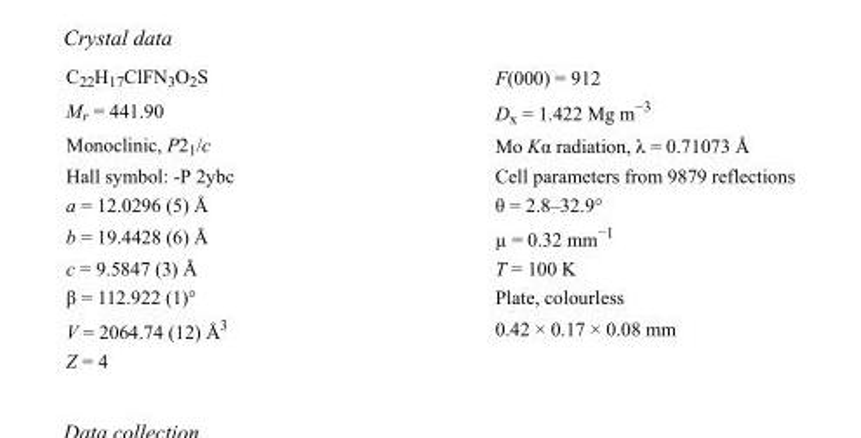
<table><tbody><tr><td>C<sub>22</sub>H<sub>17</sub>ClFN<sub>3</sub>O<sub>2</sub>S</td><td>F(000) = 912</td></tr><tr><td>M<sub>r</sub> = 441.90</td><td>D<sub>x</sub> = 1.422 Mg m<sup>−3</sup></td></tr><tr><td>Monoclinic, P2<sub>1</sub>/c</td><td>Mo Kα radiation, λ = 0.71073 Å</td></tr><tr><td>Hall symbol: -P 2ybc</td><td>Cell parameters from 9879 reflections</td></tr><tr><td>a = 12.0296 (5) Å</td><td>θ = 2.8–32.9°</td></tr><tr><td>b = 19.4428 (6) Å</td><td>µ = 0.32 mm<sup>−1</sup></td></tr><tr><td>c = 9.5847 (3) Å</td><td>T = 100 K</td></tr><tr><td>β = 112.922 (1)°</td><td>Plate, colourless</td></tr><tr><td>V = 2064.74 (12) Å<sup>3</sup></td><td>0.42 × 0.17 × 0.08 mm</td></tr><tr><td>Z = 4</td><td></td></tr></tbody></table>